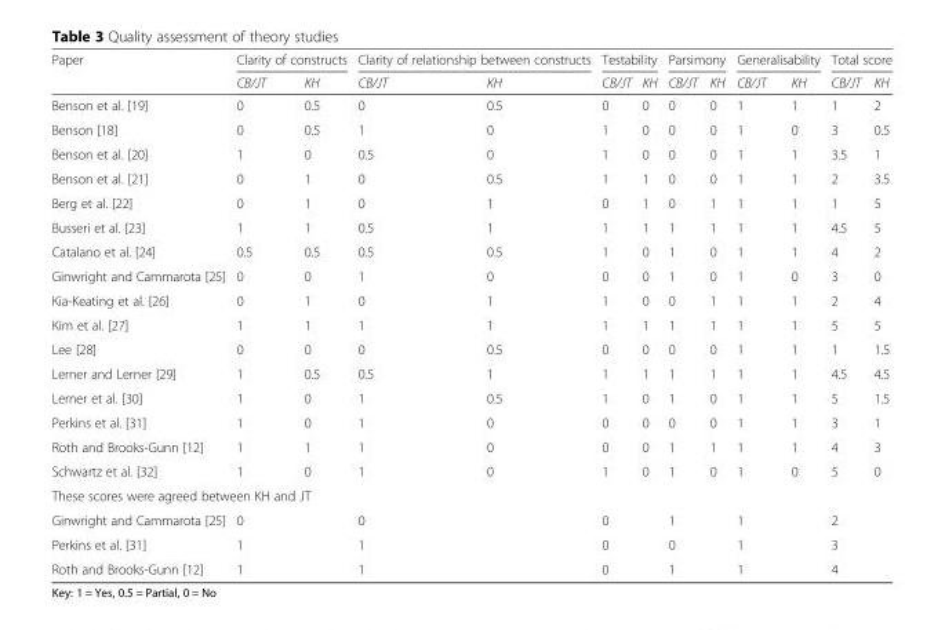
<table><thead><tr><td rowspan="2">Paper</td><td colspan="2">Clarity of constructs</td><td colspan="2">Clarity of relationship between constructs</td><td colspan="2">Testability</td><td colspan="2">Parsimony</td><td colspan="2">Generalisability</td><td colspan="2">Total score</td></tr><tr><td>CB/JT</td><td>KH</td><td>CB/JT</td><td>KH</td><td>CB/JT</td><td>KH</td><td>CB/JT</td><td>KH</td><td>CB/JT</td><td>KH</td><td>CB/JT</td><td>KH</td></tr></thead><tbody><tr><td>Benson et al. [19]</td><td>0</td><td>0.5</td><td>0</td><td>0.5</td><td>0</td><td>0</td><td>0</td><td>0</td><td>1</td><td>1</td><td>1</td><td>2</td></tr><tr><td>Benson [18]</td><td>0</td><td>0.5</td><td>1</td><td>0</td><td>1</td><td>0</td><td>0</td><td>0</td><td>1</td><td>0</td><td>3</td><td>0.5</td></tr><tr><td>Benson et al. [20]</td><td>1</td><td>0</td><td>0.5</td><td>0</td><td>1</td><td>0</td><td>0</td><td>0</td><td>1</td><td>1</td><td>3.5</td><td>1</td></tr><tr><td>Benson et al. [21]</td><td>0</td><td>1</td><td>0</td><td>0.5</td><td>1</td><td>1</td><td>0</td><td>0</td><td>1</td><td>1</td><td>2</td><td>3.5</td></tr><tr><td>Berg et al. [22]</td><td>0</td><td>1</td><td>0</td><td>1</td><td>0</td><td>1</td><td>0</td><td>1</td><td>1</td><td>1</td><td>1</td><td>5</td></tr><tr><td>Busseri et al. [23]</td><td>1</td><td>1</td><td>0.5</td><td>1</td><td>1</td><td>1</td><td>1</td><td>1</td><td>1</td><td>1</td><td>4.5</td><td>5</td></tr><tr><td>Catalano et al. [24]</td><td>0.5</td><td>0.5</td><td>0.5</td><td>0.5</td><td>1</td><td>0</td><td>1</td><td>0</td><td>1</td><td>1</td><td>4</td><td>2</td></tr><tr><td>Ginwright and Cammarota [25]</td><td>0</td><td>0</td><td>1</td><td>0</td><td>0</td><td>0</td><td>1</td><td>0</td><td>1</td><td>0</td><td>3</td><td>0</td></tr><tr><td>Kia-Keating et al. [26]</td><td>0</td><td>1</td><td>0</td><td>1</td><td>1</td><td>0</td><td>0</td><td>1</td><td>1</td><td>1</td><td>2</td><td>4</td></tr><tr><td>Kim et al. [27]</td><td>1</td><td>1</td><td>1</td><td>1</td><td>1</td><td>1</td><td>1</td><td>1</td><td>1</td><td>1</td><td>5</td><td>5</td></tr><tr><td>Lee [28]</td><td>0</td><td>0</td><td>0</td><td>0.5</td><td>0</td><td>0</td><td>0</td><td>0</td><td>1</td><td>1</td><td>1</td><td>1.5</td></tr><tr><td>Lerner and Lerner [29]</td><td>1</td><td>0.5</td><td>0.5</td><td>1</td><td>1</td><td>1</td><td>1</td><td>1</td><td>1</td><td>1</td><td>4.5</td><td>4.5</td></tr><tr><td>Lerner et al. [30]</td><td>1</td><td>0</td><td>1</td><td>0.5</td><td>1</td><td>0</td><td>1</td><td>0</td><td>1</td><td>1</td><td>5</td><td>1.5</td></tr><tr><td>Perkins et al. [31]</td><td>1</td><td>0</td><td>1</td><td>0</td><td>0</td><td>0</td><td>0</td><td>0</td><td>1</td><td>1</td><td>3</td><td>1</td></tr><tr><td>Roth and Brooks-Gunn [12]</td><td>1</td><td>1</td><td>1</td><td>0</td><td>0</td><td>0</td><td>1</td><td>1</td><td>1</td><td>1</td><td>4</td><td>3</td></tr><tr><td>Schwartz et al. [32]</td><td>1</td><td>0</td><td>1</td><td>0</td><td>1</td><td>0</td><td>1</td><td>0</td><td>1</td><td>0</td><td>5</td><td>0</td></tr><tr><td colspan="13">These scores were agreed between KH and JT</td></tr><tr><td>Ginwright and Cammarota [25]</td><td colspan="2">0</td><td colspan="2">0</td><td colspan="2">0</td><td colspan="2">1</td><td colspan="2">1</td><td colspan="2">2</td></tr><tr><td>Perkins et al. [31]</td><td colspan="2">1</td><td colspan="2">1</td><td colspan="2">0</td><td colspan="2">0</td><td colspan="2">1</td><td colspan="2">3</td></tr><tr><td>Roth and Brooks-Gunn [12]</td><td colspan="2">1</td><td colspan="2">1</td><td colspan="2">0</td><td colspan="2">1</td><td colspan="2">1</td><td colspan="2">4</td></tr></tbody></table>